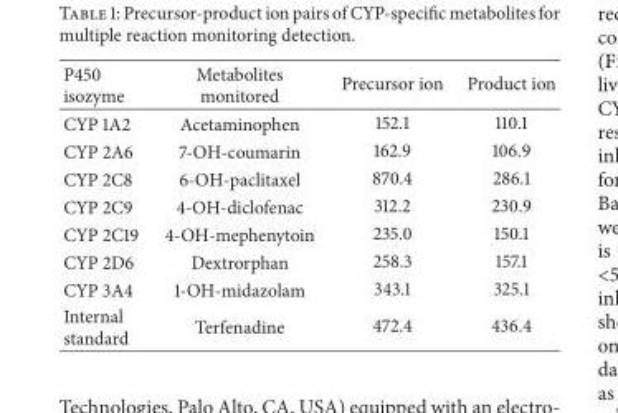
<table><thead><tr><td>P450 isozyme</td><td>Metabolites monitored</td><td>Precursor ion</td><td>Product ion</td></tr></thead><tbody><tr><td>CYP 1A2</td><td>Acetaminophen</td><td>152.1</td><td>110.1</td></tr><tr><td>CYP 2A6</td><td>7-OH-coumarin</td><td>162.9</td><td>106.9</td></tr><tr><td>CYP 2C8</td><td>6-OH-paclitaxel</td><td>870.4</td><td>286.1</td></tr><tr><td>CYP 2C9</td><td>4-OH-diclofenac</td><td>312.2</td><td>230.9</td></tr><tr><td>CYP 2C19</td><td>4-OH-mephenytoin</td><td>235.0</td><td>150.1</td></tr><tr><td>CYP 2D6</td><td>Dextrorphan</td><td>258.3</td><td>157.1</td></tr><tr><td>CYP 3A4</td><td>1-OH-midazolam</td><td>343.1</td><td>325.1</td></tr><tr><td>Internal standard</td><td>Terfenadine</td><td>472.4</td><td>436.4</td></tr></tbody></table>